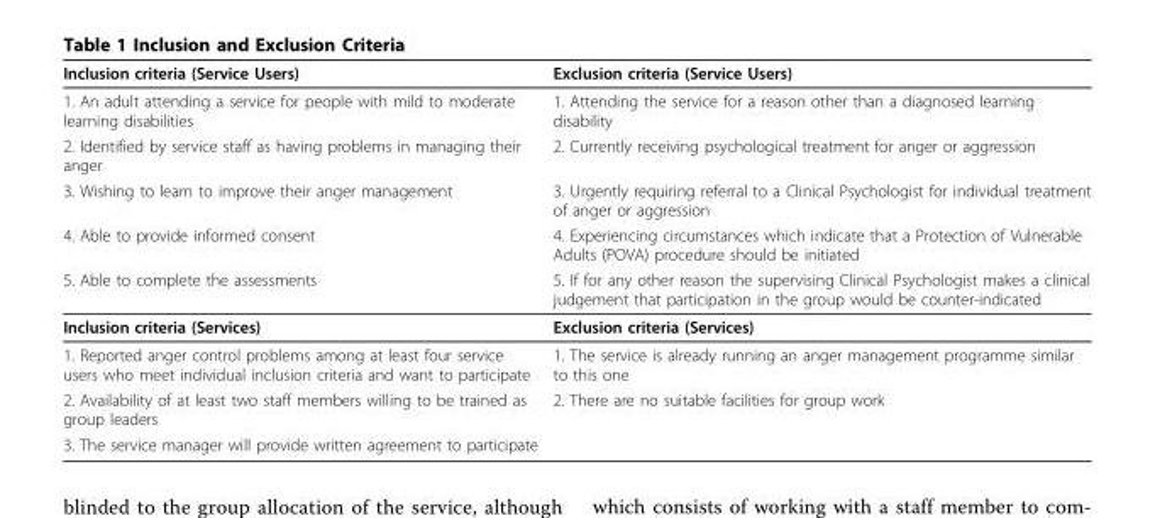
<table><thead><tr><td>Inclusion criteria (Service Users)</td><td>Exclusion criteria (Service Users)</td></tr></thead><tbody><tr><td>1. An adult attending a service for people with mild to moderate learning disabilities</td><td>1. Attending the service for a reason other than a diagnosed learning disability</td></tr><tr><td>2. Identified by service staff as having problems in managing their anger</td><td>2. Currently receiving psychological treatment for anger or aggression</td></tr><tr><td>3. Wishing to learn to improve their anger management</td><td>3. Urgently requiring referral to a Clinical Psychologist for individual treatment of anger or aggression</td></tr><tr><td>4. Able to provide informed consent</td><td>4. Experiencing circumstances which indicate that a Protection of Vulnerable Adults (POVA) procedure should be initiated</td></tr><tr><td>5. Able to complete the assessments</td><td>5. If for any other reason the supervising Clinical Psychologist makes a clinical judgement that participation in the group would be counter-indicated</td></tr><tr><td>Inclusion criteria (Services)</td><td>Exclusion criteria (Services)</td></tr><tr><td>1. Reported anger control problems among at least four service users who meet individual inclusion criteria and want to participate</td><td>1. The service is already running an anger management programme similar to this one</td></tr><tr><td>2. Availability of at least two staff members willing to be trained as group leaders</td><td>2. There are no suitable facilities for group work</td></tr><tr><td>3. The service manager will provide written agreement to participate</td><td></td></tr></tbody></table>